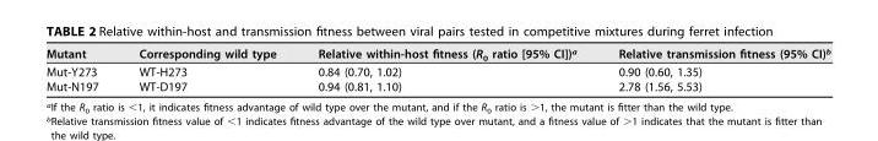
<table><thead><tr><td>Mutant</td><td>Corresponding wild type</td><td>Relative within-host fitness (R<sub>0</sub> ratio [95% CI])<sup>a</sup></td><td>Relative transmission fitness (95% CI)<sup>b</sup></td></tr></thead><tbody><tr><td>Mut-Y273</td><td>WT-H273</td><td>0.84 (0.70, 1.02)</td><td>0.90 (0.60, 1.35)</td></tr><tr><td>Mut-N197</td><td>WT-D197</td><td>0.94 (0.81, 1.10)</td><td>2.78 (1.56, 5.53)</td></tr></tbody></table>